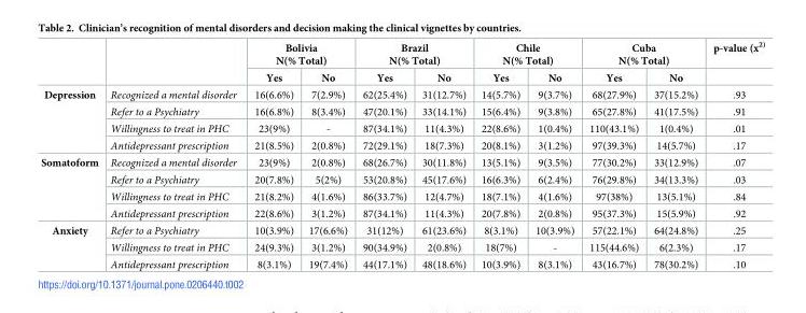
<table><thead><tr><td rowspan="2"></td><td rowspan="2"></td><td colspan="2">Bolivia N(% Total)</td><td colspan="2">Brazil N(% Total)</td><td colspan="2">Chile N(% Total)</td><td colspan="2">Cuba N(% Total)</td><td rowspan="2">p-value (x<sup>2)</sup></td></tr><tr><td>Yes</td><td>No</td><td>Yes</td><td>No</td><td>Yes</td><td>No</td><td>Yes</td><td>No</td></tr></thead><tbody><tr><td rowspan="4">Depression</td><td>Recognized a mental disorder</td><td>16(6.6%)</td><td>7(2.9%)</td><td>62(25.4%)</td><td>31(12.7%)</td><td>14(5.7%)</td><td>9(3.7%)</td><td>68(27.9%)</td><td>37(15.2%)</td><td>.93</td></tr><tr><td>Refer to a Psychiatry</td><td>16(6.8%)</td><td>8(3.4%)</td><td>47(20.1%)</td><td>33(14.1%)</td><td>15(6.4%)</td><td>9(3.8%)</td><td>65(27.8%)</td><td>41(17.5%)</td><td>.91</td></tr><tr><td>Willingness to treat in PHC</td><td>23(9%)</td><td>-</td><td>87(34.1%)</td><td>11(4.3%)</td><td>22(8.6%)</td><td>1(0.4%)</td><td>110(43.1%)</td><td>1(0.4%)</td><td>.01</td></tr><tr><td>Antidepressant prescription</td><td>21(8.5%)</td><td>2(0.8%)</td><td>72(29.1%)</td><td>18(7.3%)</td><td>20(8.1%)</td><td>3(1.2%)</td><td>97(39.3%)</td><td>14(5.7%)</td><td>.17</td></tr><tr><td rowspan="4">Somatoform</td><td>Recognized a mental disorder</td><td>23(9%)</td><td>2(0.8%)</td><td>68(26.7%)</td><td>30(11.8%)</td><td>13(5.1%)</td><td>9(3.5%)</td><td>77(30.2%)</td><td>33(12.9%)</td><td>.07</td></tr><tr><td>Refer to a Psychiatry</td><td>20(7.8%)</td><td>5(2%)</td><td>53(20.8%)</td><td>45(17.6%)</td><td>16(6.3%)</td><td>6(2.4%)</td><td>76(29.8%)</td><td>34(13.3%)</td><td>.03</td></tr><tr><td>Willingness to treat in PHC</td><td>21(8.2%)</td><td>4(1.6%)</td><td>86(33.7%)</td><td>12(4.7%)</td><td>18(7.1%)</td><td>4(1.6%)</td><td>97(38%)</td><td>13(5.1%)</td><td>.84</td></tr><tr><td>Antidepressant prescription</td><td>22(8.6%)</td><td>3(1.2%)</td><td>87(34.1%)</td><td>11(4.3%)</td><td>20(7.8%)</td><td>2(0.8%)</td><td>95(37.3%)</td><td>15(5.9%)</td><td>.92</td></tr><tr><td rowspan="3">Anxiety</td><td>Refer to a Psychiatry</td><td>10(3.9%)</td><td>17(6.6%)</td><td>31(12%)</td><td>61(23.6%)</td><td>8(3.1%)</td><td>10(3.9%)</td><td>57(22.1%)</td><td>64(24.8%)</td><td>.25</td></tr><tr><td>Willingness to treat in PHC</td><td>24(9.3%)</td><td>3(1.2%)</td><td>90(34.9%)</td><td>2(0.8%)</td><td>18(7%)</td><td>-</td><td>115(44.6%)</td><td>6(2.3%)</td><td>.17</td></tr><tr><td>Antidepressant prescription</td><td>8(3.1%)</td><td>19(7.4%)</td><td>44(17.1%)</td><td>48(18.6%)</td><td>10(3.9%)</td><td>8(3.1%)</td><td>43(16.7%)</td><td>78(30.2%)</td><td>.10</td></tr></tbody></table>